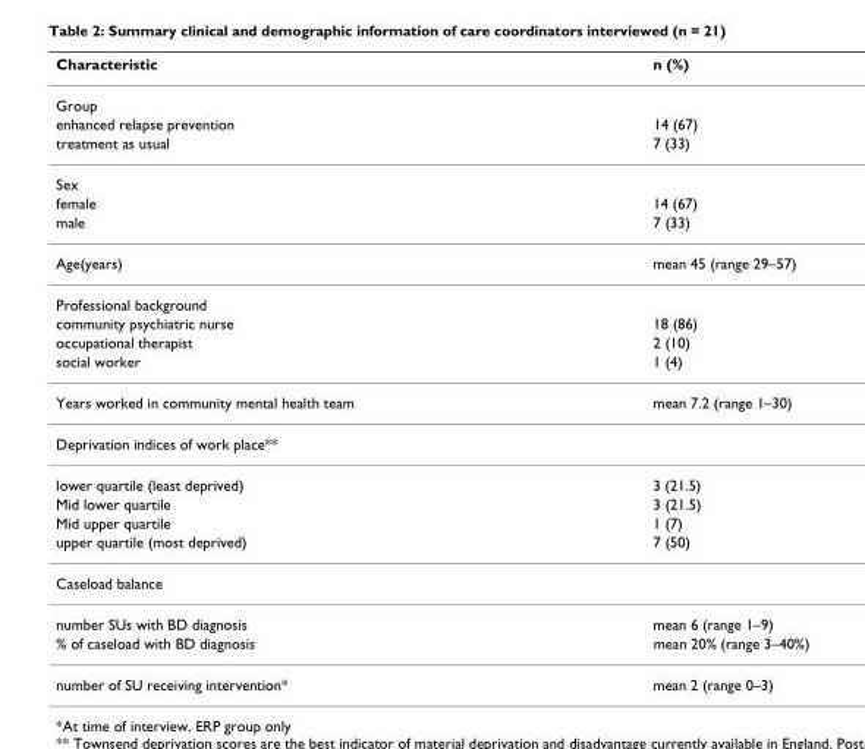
<table><thead><tr><td>Characteristic</td><td>n (%)</td></tr></thead><tbody><tr><td colspan="2">Group</td></tr><tr><td>enhanced relapse prevention</td><td>14 (67)</td></tr><tr><td>treatment as usual</td><td>7 (33)</td></tr><tr><td colspan="2">Sex</td></tr><tr><td>female</td><td>14 (67)</td></tr><tr><td>male</td><td>7 (33)</td></tr><tr><td>Age(years)</td><td>mean 45 (range 29–57)</td></tr><tr><td colspan="2">Professional background</td></tr><tr><td>community psychiatric nurse</td><td>18 (86)</td></tr><tr><td>occupational therapist</td><td>2 (10)</td></tr><tr><td>social worker</td><td>1 (4)</td></tr><tr><td>Years worked in community mental health team</td><td>mean 7.2 (range 1–30)</td></tr><tr><td colspan="2">Deprivation indices of work place**</td></tr><tr><td>lower quartile (least deprived)</td><td>3 (21.5)</td></tr><tr><td>Mid lower quartile</td><td>3 (21.5)</td></tr><tr><td>Mid upper quartile</td><td>1 (7)</td></tr><tr><td>upper quartile (most deprived)</td><td>7 (50)</td></tr><tr><td colspan="2">Caseload balance</td></tr><tr><td>number SUs with BD diagnosis</td><td>mean 6 (range 1–9)</td></tr><tr><td>% of caseload with BD diagnosis</td><td>mean 20% (range 3–40%)</td></tr><tr><td>number of SU receiving intervention*</td><td>mean 2 (range 0–3)</td></tr></tbody></table>